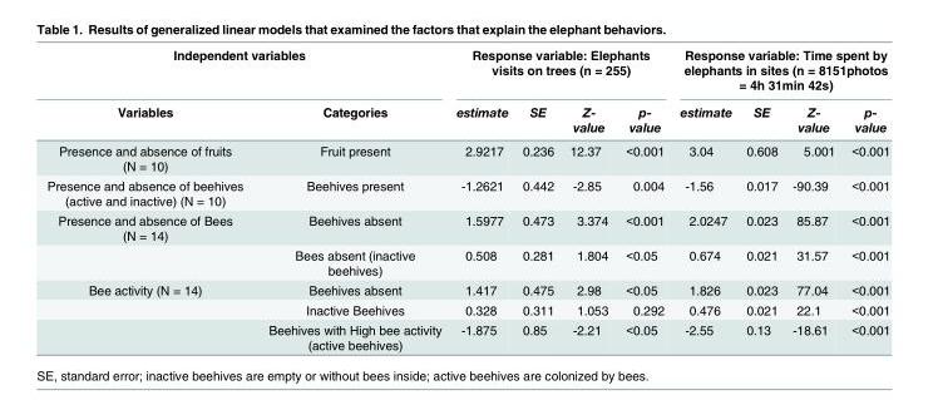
<table><thead><tr><td colspan="2">Independent variables</td><td colspan="4">Response variable: Elephants visits on trees (n = 255)</td><td colspan="4">Response variable: Time spent by elephants in sites (n = 8151photos = 4h 31min 42s)</td></tr><tr><td>Variables</td><td>Categories</td><td>estimate</td><td>SE</td><td>Z- value</td><td>p- value</td><td>estimate</td><td>SE</td><td>Z- value</td><td>p- value</td></tr></thead><tbody><tr><td>Presence and absence of fruits (N = 10)</td><td>Fruit present</td><td>2.9217</td><td>0.236</td><td>12.37</td><td>&lt;0.001</td><td>3.04</td><td>0.608</td><td>5.001</td><td>&lt;0.001</td></tr><tr><td>Presence and absence of beehives (active and inactive) (N = 10)</td><td>Beehives present</td><td>-1.2621</td><td>0.442</td><td>-2.85</td><td>0.004</td><td>-1.56</td><td>0.017</td><td>-90.39</td><td>&lt;0.001</td></tr><tr><td rowspan="2">Presence and absence of Bees (N = 14)</td><td>Beehives absent</td><td>1.5977</td><td>0.473</td><td>3.374</td><td>&lt;0.001</td><td>2.0247</td><td>0.023</td><td>85.87</td><td>&lt;0.001</td></tr><tr><td>Bees absent (inactive beehives)</td><td>0.508</td><td>0.281</td><td>1.804</td><td>&lt;0.05</td><td>0.674</td><td>0.021</td><td>31.57</td><td>&lt;0.001</td></tr><tr><td rowspan="3">Bee activity (N = 14)</td><td>Beehives absent</td><td>1.417</td><td>0.475</td><td>2.98</td><td>&lt;0.05</td><td>1.826</td><td>0.023</td><td>77.04</td><td>&lt;0.001</td></tr><tr><td>Inactive Beehives</td><td>0.328</td><td>0.311</td><td>1.053</td><td>0.292</td><td>0.476</td><td>0.021</td><td>22.1</td><td>&lt;0.001</td></tr><tr><td>Beehives with High bee activity (active beehives)</td><td>-1.875</td><td>0.85</td><td>-2.21</td><td>&lt;0.05</td><td>-2.55</td><td>0.13</td><td>-18.61</td><td>&lt;0.001</td></tr></tbody></table>